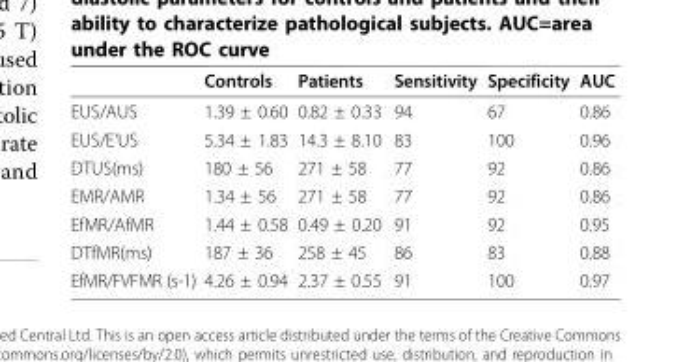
<table><thead><tr><td></td><td>Controls</td><td>Patients</td><td>Sensitivity</td><td>Specificity</td><td>AUC</td></tr></thead><tbody><tr><td>EUS/AUS</td><td>1.39 ± 0.60</td><td>0.82 ± 0.33</td><td>94</td><td>67</td><td>0.86</td></tr><tr><td>EUS/E’US</td><td>5.34 ± 1.83</td><td>14.3 ± 8.10</td><td>83</td><td>100</td><td>0.96</td></tr><tr><td>DTUS(ms)</td><td>180 ± 56</td><td>271 ± 58</td><td>77</td><td>92</td><td>0.86</td></tr><tr><td>EMR/AMR</td><td>1.34 ± 56</td><td>271 ± 58</td><td>77</td><td>92</td><td>0.86</td></tr><tr><td>EfMR/AfMR</td><td>1.44 ± 0.58</td><td>0.49 ± 0.20</td><td>91</td><td>92</td><td>0.95</td></tr><tr><td>DTfMR(ms)</td><td>187 ± 36</td><td>258 ± 45</td><td>86</td><td>83</td><td>0.88</td></tr><tr><td>EfMR/FVFMR (s-1)</td><td>4.26 ± 0.94</td><td>2.37 ± 0.55</td><td>91</td><td>100</td><td>0.97</td></tr></tbody></table>